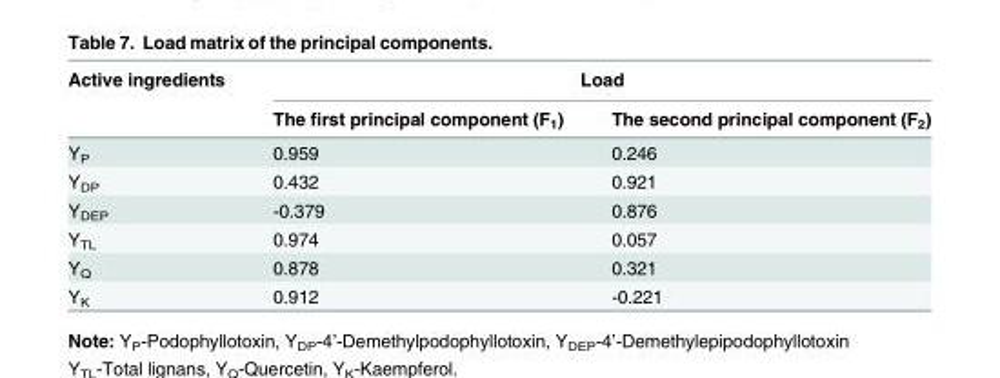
<table><thead><tr><td rowspan="2">Active ingredients</td><td colspan="2">Load</td></tr><tr><td>The first principal component (F<sub>1</sub>)</td><td>The second principal component (F<sub>2</sub>)</td></tr></thead><tbody><tr><td>Y<sub>P</sub></td><td>0.959</td><td>0.246</td></tr><tr><td>Y<sub>DP</sub></td><td>0.432</td><td>0.921</td></tr><tr><td>Y<sub>DEP</sub></td><td>-0.379</td><td>0.876</td></tr><tr><td>Y<sub>TL</sub></td><td>0.974</td><td>0.057</td></tr><tr><td>Y<sub>Q</sub></td><td>0.878</td><td>0.321</td></tr><tr><td>Y<sub>K</sub></td><td>0.912</td><td>-0.221</td></tr></tbody></table>